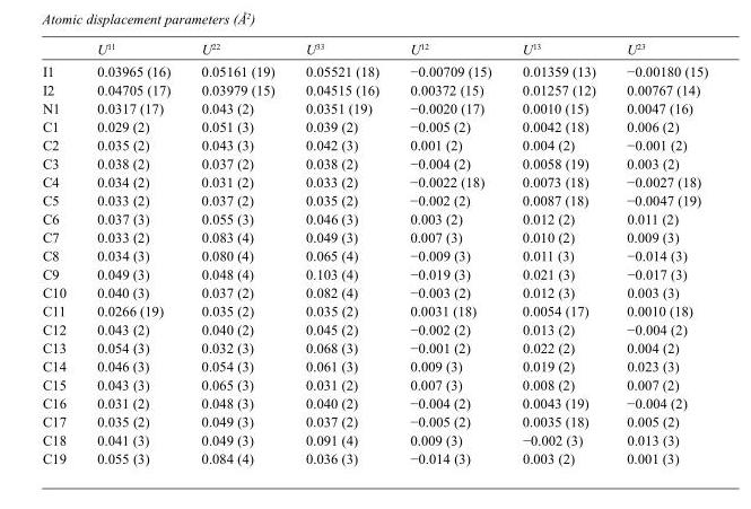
<table><thead><tr><td></td><td>U<sup>11</sup></td><td>U<sup>22</sup></td><td>U<sup>33</sup></td><td>U<sup>12</sup></td><td>U<sup>13</sup></td><td>U<sup>23</sup></td></tr></thead><tbody><tr><td>I1</td><td>0.03965 (16)</td><td>0.05161 (19)</td><td>0.05521 (18)</td><td>−0.00709 (15)</td><td>0.01359 (13)</td><td>−0.00180 (15)</td></tr><tr><td>I2</td><td>0.04705 (17)</td><td>0.03979 (15)</td><td>0.04515 (16)</td><td>0.00372 (15)</td><td>0.01257 (12)</td><td>0.00767 (14)</td></tr><tr><td>N1</td><td>0.0317 (17)</td><td>0.043 (2)</td><td>0.0351 (19)</td><td>−0.0020 (17)</td><td>0.0010 (15)</td><td>0.0047 (16)</td></tr><tr><td>C1</td><td>0.029 (2)</td><td>0.051 (3)</td><td>0.039 (2)</td><td>−0.005 (2)</td><td>0.0042 (18)</td><td>0.006 (2)</td></tr><tr><td>C2</td><td>0.035 (2)</td><td>0.043 (3)</td><td>0.042 (3)</td><td>0.001 (2)</td><td>0.004 (2)</td><td>−0.001 (2)</td></tr><tr><td>C3</td><td>0.038 (2)</td><td>0.037 (2)</td><td>0.038 (2)</td><td>−0.004 (2)</td><td>0.0058 (19)</td><td>0.003 (2)</td></tr><tr><td>C4</td><td>0.034 (2)</td><td>0.031 (2)</td><td>0.033 (2)</td><td>−0.0022 (18)</td><td>0.0073 (18)</td><td>−0.0027 (18)</td></tr><tr><td>C5</td><td>0.033 (2)</td><td>0.037 (2)</td><td>0.035 (2)</td><td>−0.002 (2)</td><td>0.0087 (18)</td><td>−0.0047 (19)</td></tr><tr><td>C6</td><td>0.037 (3)</td><td>0.055 (3)</td><td>0.046 (3)</td><td>0.003 (2)</td><td>0.012 (2)</td><td>0.011 (2)</td></tr><tr><td>C7</td><td>0.033 (2)</td><td>0.083 (4)</td><td>0.049 (3)</td><td>0.007 (3)</td><td>0.010 (2)</td><td>0.009 (3)</td></tr><tr><td>C8</td><td>0.034 (3)</td><td>0.080 (4)</td><td>0.065 (4)</td><td>−0.009 (3)</td><td>0.011 (3)</td><td>−0.014 (3)</td></tr><tr><td>C9</td><td>0.049 (3)</td><td>0.048 (4)</td><td>0.103 (4)</td><td>−0.019 (3)</td><td>0.021 (3)</td><td>−0.017 (3)</td></tr><tr><td>C10</td><td>0.040 (3)</td><td>0.037 (2)</td><td>0.082 (4)</td><td>−0.003 (2)</td><td>0.012 (3)</td><td>0.003 (3)</td></tr><tr><td>C11</td><td>0.0266 (19)</td><td>0.035 (2)</td><td>0.035 (2)</td><td>0.0031 (18)</td><td>0.0054 (17)</td><td>0.0010 (18)</td></tr><tr><td>C12</td><td>0.043 (2)</td><td>0.040 (2)</td><td>0.045 (2)</td><td>−0.002 (2)</td><td>0.013 (2)</td><td>−0.004 (2)</td></tr><tr><td>C13</td><td>0.054 (3)</td><td>0.032 (3)</td><td>0.068 (3)</td><td>−0.001 (2)</td><td>0.022 (2)</td><td>0.004 (2)</td></tr><tr><td>C14</td><td>0.046 (3)</td><td>0.054 (3)</td><td>0.061 (3)</td><td>0.009 (3)</td><td>0.019 (2)</td><td>0.023 (3)</td></tr><tr><td>C15</td><td>0.043 (3)</td><td>0.065 (3)</td><td>0.031 (2)</td><td>0.007 (3)</td><td>0.008 (2)</td><td>0.007 (2)</td></tr><tr><td>C16</td><td>0.031 (2)</td><td>0.048 (3)</td><td>0.040 (2)</td><td>−0.004 (2)</td><td>0.0043 (19)</td><td>−0.004 (2)</td></tr><tr><td>C17</td><td>0.035 (2)</td><td>0.049 (3)</td><td>0.037 (2)</td><td>−0.005 (2)</td><td>0.0035 (18)</td><td>0.005 (2)</td></tr><tr><td>C18</td><td>0.041 (3)</td><td>0.049 (3)</td><td>0.091 (4)</td><td>0.009 (3)</td><td>−0.002 (3)</td><td>0.013 (3)</td></tr><tr><td>C19</td><td>0.055 (3)</td><td>0.084 (4)</td><td>0.036 (3)</td><td>−0.014 (3)</td><td>0.003 (2)</td><td>0.001 (3)</td></tr></tbody></table>